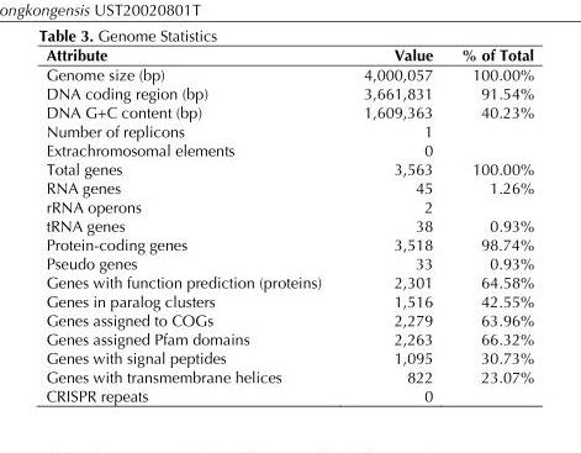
<table><thead><tr><td>Attribute</td><td>Value</td><td>% of Total</td></tr></thead><tbody><tr><td>Genome size (bp)</td><td>4,000,057</td><td>100.00%</td></tr><tr><td>DNA coding region (bp)</td><td>3,661,831</td><td>91.54%</td></tr><tr><td>DNA G+C content (bp)</td><td>1,609,363</td><td>40.23%</td></tr><tr><td>Number of replicons</td><td>1</td><td></td></tr><tr><td>Extrachromosomal elements</td><td>0</td><td></td></tr><tr><td>Total genes</td><td>3,563</td><td>100.00%</td></tr><tr><td>RNA genes</td><td>45</td><td>1.26%</td></tr><tr><td>rRNA operons</td><td>2</td><td></td></tr><tr><td>tRNA genes</td><td>38</td><td>0.93%</td></tr><tr><td>Protein-coding genes</td><td>3,518</td><td>98.74%</td></tr><tr><td>Pseudo genes</td><td>33</td><td>0.93%</td></tr><tr><td>Genes with function prediction (proteins)</td><td>2,301</td><td>64.58%</td></tr><tr><td>Genes in paralog clusters</td><td>1,516</td><td>42.55%</td></tr><tr><td>Genes assigned to COGs</td><td>2,279</td><td>63.96%</td></tr><tr><td>Genes assigned Pfam domains</td><td>2,263</td><td>66.32%</td></tr><tr><td>Genes with signal peptides</td><td>1,095</td><td>30.73%</td></tr><tr><td>Genes with transmembrane helices</td><td>822</td><td>23.07%</td></tr><tr><td>CRISPR repeats</td><td>0</td><td></td></tr></tbody></table>